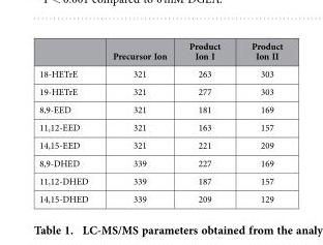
<table><thead><tr><td></td><td>Precursor Ion</td><td>Product Ion I</td><td>Product Ion II</td></tr></thead><tbody><tr><td>18-HETrE</td><td>321</td><td>263</td><td>303</td></tr><tr><td>19-HETrE</td><td>321</td><td>277</td><td>303</td></tr><tr><td>8,9-EED</td><td>321</td><td>181</td><td>169</td></tr><tr><td>11,12-EED</td><td>321</td><td>163</td><td>157</td></tr><tr><td>14,15-EED</td><td>321</td><td>221</td><td>209</td></tr><tr><td>8,9-DHED</td><td>339</td><td>227</td><td>169</td></tr><tr><td>11,12-DHED</td><td>339</td><td>187</td><td>157</td></tr><tr><td>14,15-DHED</td><td>339</td><td>209</td><td>129</td></tr></tbody></table>